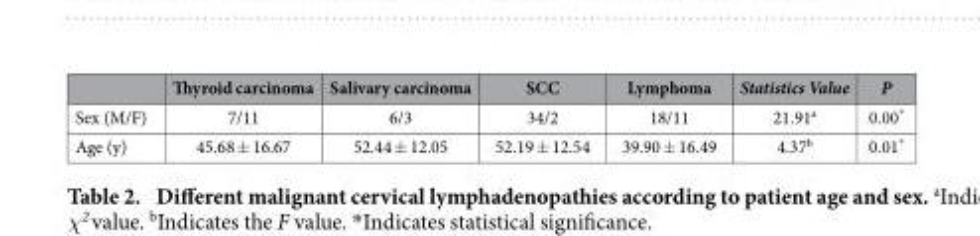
<table><thead><tr><td></td><td>Thyroid carcinoma</td><td>Salivary carcinoma</td><td>SCC</td><td>Lymphoma</td><td>Statistics Value</td><td>P</td></tr></thead><tbody><tr><td>Sex (M/F)</td><td>7/11</td><td>6/3</td><td>34/2</td><td>18/11</td><td>21.91<sup>a</sup></td><td>0.00*</td></tr><tr><td>Age (y)</td><td>45.68 ± 16.67</td><td>52.44 ± 12.05</td><td>52.19 ± 12.54</td><td>39.90 ± 16.49</td><td>4.37<sup>b</sup></td><td>0.01*</td></tr></tbody></table>